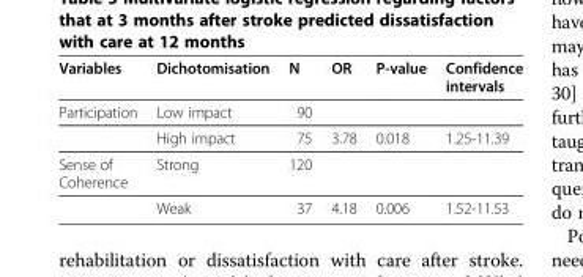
<table><thead><tr><td>Variables</td><td>Dichotomisation</td><td>N</td><td>OR</td><td>P-value</td><td>Confidence intervals</td></tr></thead><tbody><tr><td rowspan="2">Participation</td><td>Low impact</td><td>90</td><td></td><td></td><td></td></tr><tr><td>High impact</td><td>75</td><td>3.78</td><td>0.018</td><td>1.25-11.39</td></tr><tr><td rowspan="2">Sense of Coherence</td><td>Strong</td><td>120</td><td></td><td></td><td></td></tr><tr><td>Weak</td><td>37</td><td>4.18</td><td>0.006</td><td>1.52-11.53</td></tr></tbody></table>